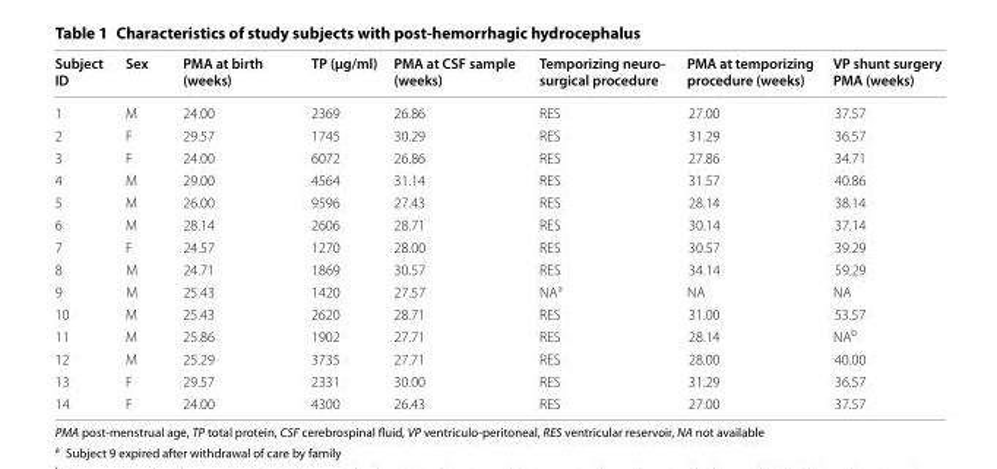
<table><thead><tr><td>Subject ID</td><td>Sex</td><td>PMA at birth (weeks)</td><td>TP (μg/ml)</td><td>PMA at CSF sample (weeks)</td><td>Temporizing neuro- surgical procedure</td><td>PMA at temporizing procedure (weeks)</td><td>VP shunt surgery PMA (weeks)</td></tr></thead><tbody><tr><td>1</td><td>M</td><td>24.00</td><td>2369</td><td>26.86</td><td>RES</td><td>27.00</td><td>37.57</td></tr><tr><td>2</td><td>F</td><td>29.57</td><td>1745</td><td>30.29</td><td>RES</td><td>31.29</td><td>36.57</td></tr><tr><td>3</td><td>F</td><td>24.00</td><td>6072</td><td>26.86</td><td>RES</td><td>27.86</td><td>34.71</td></tr><tr><td>4</td><td>M</td><td>29.00</td><td>4564</td><td>31.14</td><td>RES</td><td>31.57</td><td>40.86</td></tr><tr><td>5</td><td>M</td><td>26.00</td><td>9596</td><td>27.43</td><td>RES</td><td>28.14</td><td>38.14</td></tr><tr><td>6</td><td>M</td><td>28.14</td><td>2606</td><td>28.71</td><td>RES</td><td>30.14</td><td>37.14</td></tr><tr><td>7</td><td>F</td><td>24.57</td><td>1270</td><td>28.00</td><td>RES</td><td>30.57</td><td>39.29</td></tr><tr><td>8</td><td>M</td><td>24.71</td><td>1869</td><td>30.57</td><td>RES</td><td>34.14</td><td>59.29</td></tr><tr><td>9</td><td>M</td><td>25.43</td><td>1420</td><td>27.57</td><td>NA<sup>a</sup></td><td>NA</td><td>NA</td></tr><tr><td>10</td><td>M</td><td>25.43</td><td>2620</td><td>28.71</td><td>RES</td><td>31.00</td><td>53.57</td></tr><tr><td>11</td><td>M</td><td>25.86</td><td>1902</td><td>27.71</td><td>RES</td><td>28.14</td><td>NA<sup>b</sup></td></tr><tr><td>12</td><td>M</td><td>25.29</td><td>3735</td><td>27.71</td><td>RES</td><td>28.00</td><td>40.00</td></tr><tr><td>13</td><td>F</td><td>29.57</td><td>2331</td><td>30.00</td><td>RES</td><td>31.29</td><td>36.57</td></tr><tr><td>14</td><td>F</td><td>24.00</td><td>4300</td><td>26.43</td><td>RES</td><td>27.00</td><td>37.57</td></tr></tbody></table>